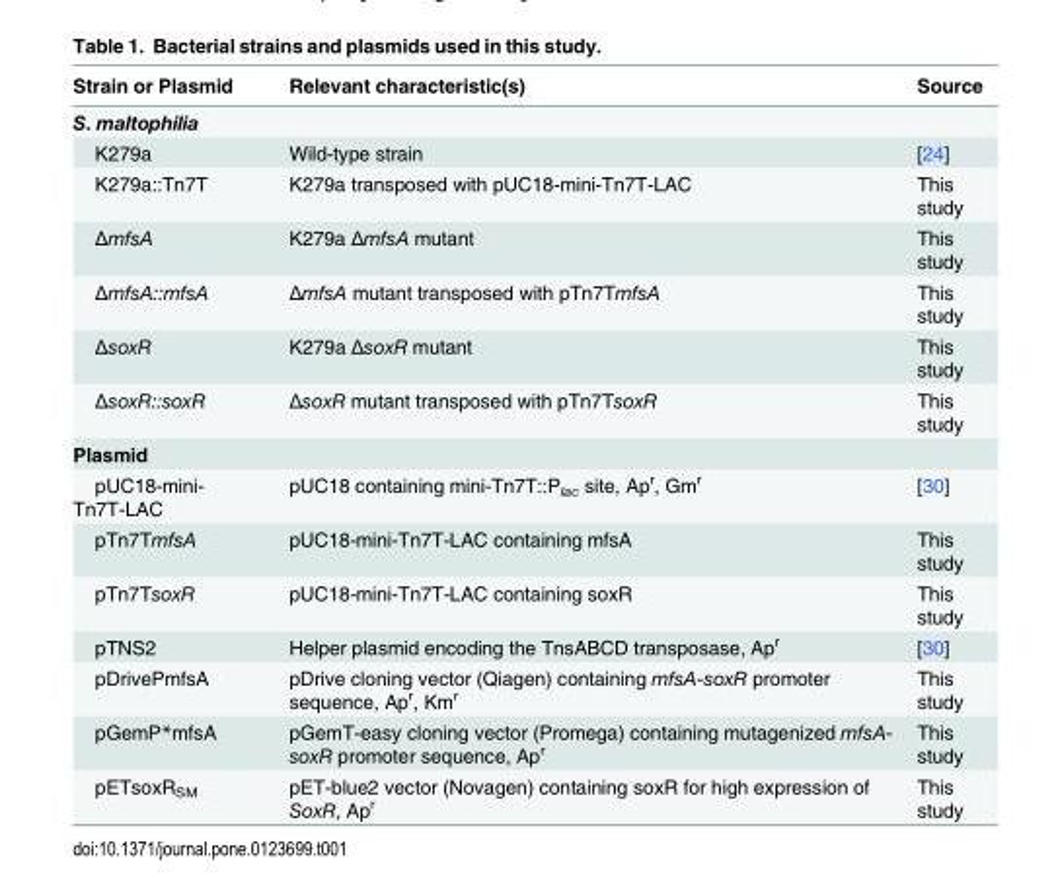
<table><thead><tr><td>Strain or Plasmid</td><td>Relevant characteristic(s)</td><td>Source</td></tr></thead><tbody><tr><td colspan="3">S. maltophilia</td></tr><tr><td>K279a</td><td>Wild-type strain</td><td>[24]</td></tr><tr><td>K279a::Tn7T</td><td>K279a transposed with pUC18-mini-Tn7T-LAC</td><td>This study</td></tr><tr><td>ΔmfsA</td><td>K279a ΔmfsA mutant</td><td>This study</td></tr><tr><td>ΔmfsA::mfsA</td><td>ΔmfsA mutant transposed with pTn7TmfsA</td><td>This study</td></tr><tr><td>ΔsoxR</td><td>K279a ΔsoxR mutant</td><td>This study</td></tr><tr><td>ΔsoxR::soxR</td><td>ΔsoxR mutant transposed with pTn7TsoxR</td><td>This study</td></tr><tr><td colspan="3">Plasmid</td></tr><tr><td>pUC18-mini- Tn7T-LAC</td><td>pUC18 containing mini-Tn7T::P<sub>lac</sub> site, Ap<sup>r</sup>, Gm<sup>r</sup></td><td>[30]</td></tr><tr><td>pTn7TmfsA</td><td>pUC18-mini-Tn7T-LAC containing mfsA</td><td>This study</td></tr><tr><td>pTn7TsoxR</td><td>pUC18-mini-Tn7T-LAC containing soxR</td><td>This study</td></tr><tr><td>pTNS2</td><td>Helper plasmid encoding the TnsABCD transposase, Ap<sup>r</sup></td><td>[30]</td></tr><tr><td>pDrivePmfsA</td><td>pDrive cloning vector (Qiagen) containing mfsA-soxR promoter sequence, Ap<sup>r</sup>, Km<sup>r</sup></td><td>This study</td></tr><tr><td>pGemP*mfsA</td><td>pGemT-easy cloning vector (Promega) containing mutagenized mfsA- soxR promoter sequence, Ap<sup>r</sup></td><td>This study</td></tr><tr><td>pETsoxR<sub>SM</sub></td><td>pET-blue2 vector (Novagen) containing soxR for high expression of SoxR, Ap<sup>r</sup></td><td>This study</td></tr></tbody></table>